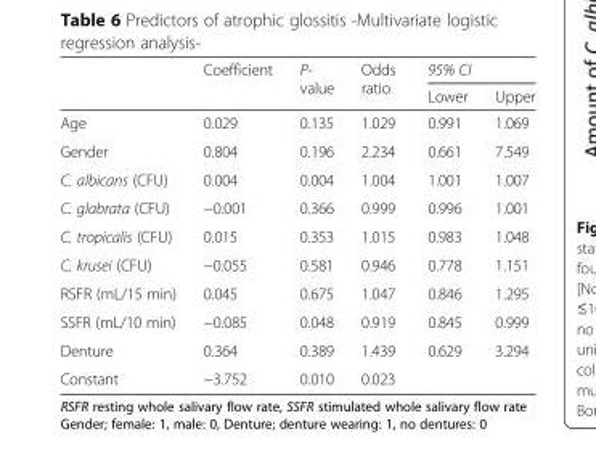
<table><thead><tr><td rowspan="2"></td><td rowspan="2">Coefficient</td><td rowspan="2">P- value</td><td rowspan="2">Odds ratio</td><td colspan="2">95% CI</td></tr><tr><td>Lower</td><td>Upper</td></tr></thead><tbody><tr><td>Age</td><td>0.029</td><td>0.135</td><td>1.029</td><td>0.991</td><td>1.069</td></tr><tr><td>Gender</td><td>0.804</td><td>0.196</td><td>2.234</td><td>0.661</td><td>7.549</td></tr><tr><td>C. albicans (CFU)</td><td>0.004</td><td>0.004</td><td>1.004</td><td>1.001</td><td>1.007</td></tr><tr><td>C. glabrata (CFU)</td><td>−0.001</td><td>0.366</td><td>0.999</td><td>0.996</td><td>1.001</td></tr><tr><td>C. tropicalis (CFU)</td><td>0.015</td><td>0.353</td><td>1.015</td><td>0.983</td><td>1.048</td></tr><tr><td>C. krusei (CFU)</td><td>−0.055</td><td>0.581</td><td>0.946</td><td>0.778</td><td>1.151</td></tr><tr><td>RSFR (mL/15 min)</td><td>0.045</td><td>0.675</td><td>1.047</td><td>0.846</td><td>1.295</td></tr><tr><td>SSFR (mL/10 min)</td><td>−0.085</td><td>0.048</td><td>0.919</td><td>0.845</td><td>0.999</td></tr><tr><td>Denture</td><td>0.364</td><td>0.389</td><td>1.439</td><td>0.629</td><td>3.294</td></tr><tr><td>Constant</td><td>−3.752</td><td>0.010</td><td>0.023</td><td></td><td></td></tr></tbody></table>